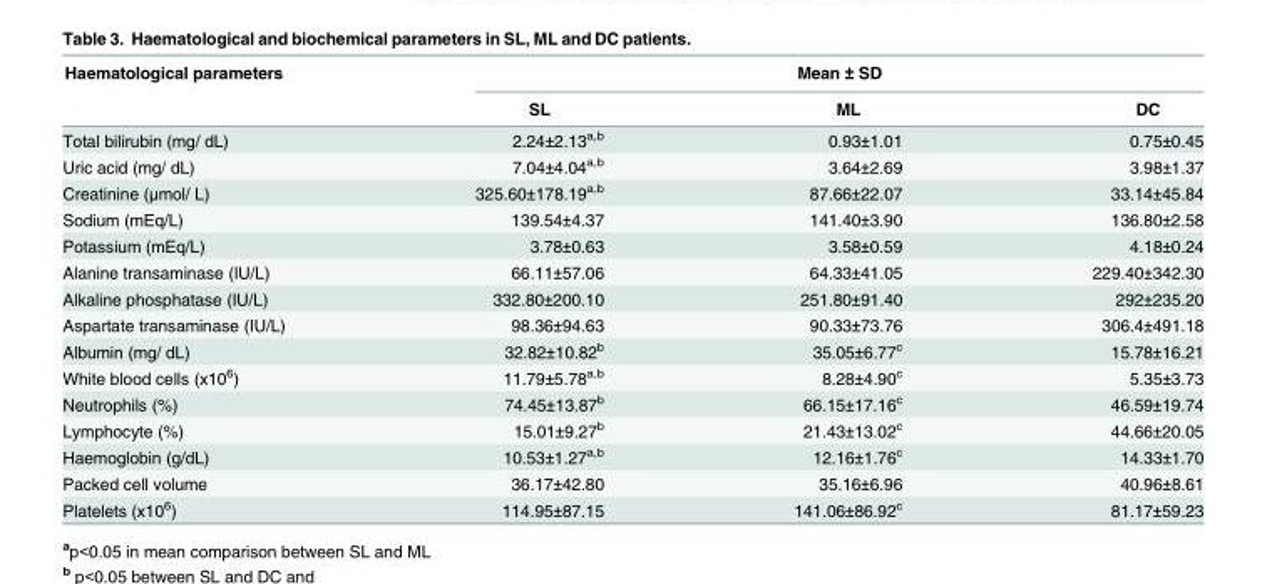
<table><thead><tr><td rowspan="2">Haematological parameters</td><td colspan="3">Mean ± SD</td></tr><tr><td>SL</td><td>ML</td><td>DC</td></tr></thead><tbody><tr><td>Total bilirubin (mg/ dL)</td><td>2.24±2.13<sup>a,b</sup></td><td>0.93±1.01</td><td>0.75±0.45</td></tr><tr><td>Uric acid (mg/ dL)</td><td>7.04±4.04<sup>a,b</sup></td><td>3.64±2.69</td><td>3.98±1.37</td></tr><tr><td>Creatinine (μmol/ L)</td><td>325.60±178.19<sup>a,b</sup></td><td>87.66±22.07</td><td>33.14±45.84</td></tr><tr><td>Sodium (mEq/L)</td><td>139.54±4.37</td><td>141.40±3.90</td><td>136.80±2.58</td></tr><tr><td>Potassium (mEq/L)</td><td>3.78±0.63</td><td>3.58±0.59</td><td>4.18±0.24</td></tr><tr><td>Alanine transaminase (IU/L)</td><td>66.11±57.06</td><td>64.33±41.05</td><td>229.40±342.30</td></tr><tr><td>Alkaline phosphatase (IU/L)</td><td>332.80±200.10</td><td>251.80±91.40</td><td>292±235.20</td></tr><tr><td>Aspartate transaminase (IU/L)</td><td>98.36±94.63</td><td>90.33±73.76</td><td>306.4±491.18</td></tr><tr><td>Albumin (mg/ dL)</td><td>32.82±10.82<sup>b</sup></td><td>35.05±6.77<sup>c</sup></td><td>15.78±16.21</td></tr><tr><td>White blood cells (x10<sup>6</sup>)</td><td>11.79±5.78<sup>a,b</sup></td><td>8.28±4.90<sup>c</sup></td><td>5.35±3.73</td></tr><tr><td>Neutrophils (%)</td><td>74.45±13.87<sup>b</sup></td><td>66.15±17.16<sup>c</sup></td><td>46.59±19.74</td></tr><tr><td>Lymphocyte (%)</td><td>15.01±9.27<sup>b</sup></td><td>21.43±13.02<sup>c</sup></td><td>44.66±20.05</td></tr><tr><td>Haemoglobin (g/dL)</td><td>10.53±1.27<sup>a,b</sup></td><td>12.16±1.76<sup>c</sup></td><td>14.33±1.70</td></tr><tr><td>Packed cell volume</td><td>36.17±42.80</td><td>35.16±6.96</td><td>40.96±8.61</td></tr><tr><td>Platelets (x10<sup>6</sup>)</td><td>114.95±87.15</td><td>141.06±86.92<sup>c</sup></td><td>81.17±59.23</td></tr></tbody></table>